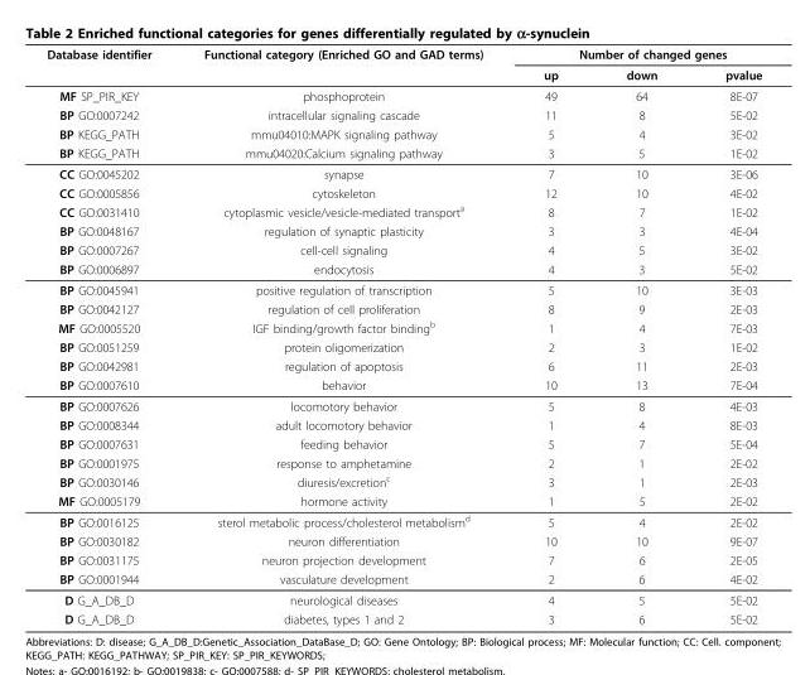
<table><thead><tr><td rowspan="2">Database identifier</td><td rowspan="2">Functional category (Enriched GO and GAD terms)</td><td colspan="3">Number of changed genes</td></tr><tr><td>up</td><td>down</td><td>pvalue</td></tr></thead><tbody><tr><td>MF SP_PIR_KEY</td><td>phosphoprotein</td><td>49</td><td>64</td><td>8E-07</td></tr><tr><td>BP GO:0007242</td><td>intracellular signaling cascade</td><td>11</td><td>8</td><td>5E-02</td></tr><tr><td>BP KEGG_PATH</td><td>mmu04010:MAPK signaling pathway</td><td>5</td><td>4</td><td>3E-02</td></tr><tr><td>BP KEGG_PATH</td><td>mmu04020:Calcium signaling pathway</td><td>3</td><td>5</td><td>1E-02</td></tr><tr><td>CC GO:0045202</td><td>synapse</td><td>7</td><td>10</td><td>3E-06</td></tr><tr><td>CC GO:0005856</td><td>cytoskeleton</td><td>12</td><td>10</td><td>4E-02</td></tr><tr><td>CC GO:0031410</td><td>cytoplasmic vesicle/vesicle-mediated transport<sup>a</sup></td><td>8</td><td>7</td><td>1E-02</td></tr><tr><td>BP GO:0048167</td><td>regulation of synaptic plasticity</td><td>3</td><td>3</td><td>4E-04</td></tr><tr><td>BP GO:0007267</td><td>cell-cell signaling</td><td>4</td><td>5</td><td>3E-02</td></tr><tr><td>BP GO:0006897</td><td>endocytosis</td><td>4</td><td>3</td><td>5E-02</td></tr><tr><td>BP GO:0045941</td><td>positive regulation of transcription</td><td>5</td><td>10</td><td>3E-03</td></tr><tr><td>BP GO:0042127</td><td>regulation of cell proliferation</td><td>8</td><td>9</td><td>2E-03</td></tr><tr><td>MF GO:0005520</td><td>IGF binding/growth factor binding<sup>b</sup></td><td>1</td><td>4</td><td>7E-03</td></tr><tr><td>BP GO:0051259</td><td>protein oligomerization</td><td>2</td><td>3</td><td>1E-02</td></tr><tr><td>BP GO:0042981</td><td>regulation of apoptosis</td><td>6</td><td>11</td><td>2E-03</td></tr><tr><td>BP GO:0007610</td><td>behavior</td><td>10</td><td>13</td><td>7E-04</td></tr><tr><td>BP GO:0007626</td><td>locomotory behavior</td><td>5</td><td>8</td><td>4E-03</td></tr><tr><td>BP GO:0008344</td><td>adult locomotory behavior</td><td>1</td><td>4</td><td>8E-03</td></tr><tr><td>BP GO:0007631</td><td>feeding behavior</td><td>5</td><td>7</td><td>5E-04</td></tr><tr><td>BP GO:0001975</td><td>response to amphetamine</td><td>2</td><td>1</td><td>2E-02</td></tr><tr><td>BP GO:0030146</td><td>diuresis/excretion<sup>c</sup></td><td>3</td><td>1</td><td>2E-03</td></tr><tr><td>MF GO:0005179</td><td>hormone activity</td><td>1</td><td>5</td><td>2E-02</td></tr><tr><td>BP GO:0016125</td><td>sterol metabolic process/cholesterol metabolism<sup>d</sup></td><td>5</td><td>4</td><td>2E-02</td></tr><tr><td>BP GO:0030182</td><td>neuron differentiation</td><td>10</td><td>10</td><td>9E-07</td></tr><tr><td>BP GO:0031175</td><td>neuron projection development</td><td>7</td><td>6</td><td>2E-05</td></tr><tr><td>BP GO:0001944</td><td>vasculature development</td><td>2</td><td>6</td><td>4E-02</td></tr><tr><td>D G_A_DB_D</td><td>neurological diseases</td><td>4</td><td>5</td><td>5E-02</td></tr><tr><td>D G_A_DB_D</td><td>diabetes, types 1 and 2</td><td>3</td><td>6</td><td>5E-02</td></tr></tbody></table>